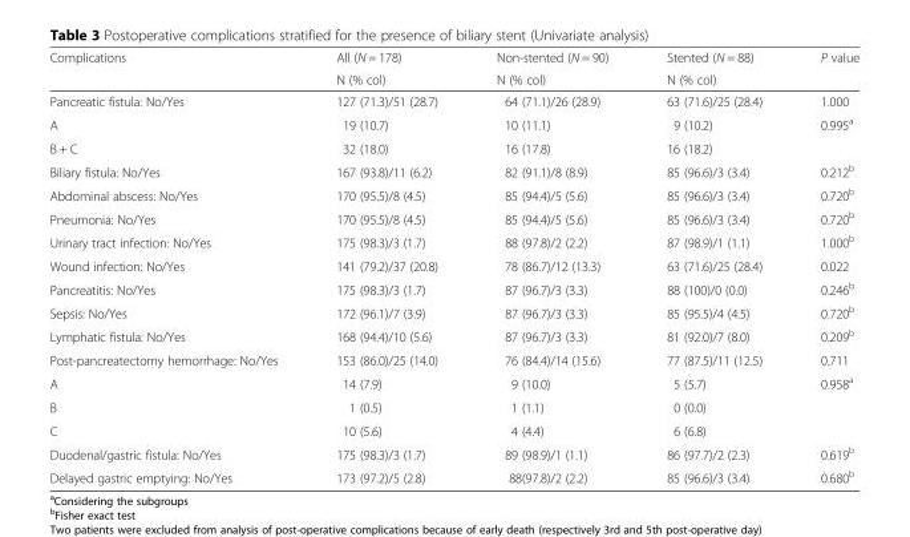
<table><thead><tr><td rowspan="2">Complications</td><td rowspan="2">All (N = 178) N (% col)</td><td rowspan="2">Non-stented (N = 90) N (% col)</td><td rowspan="2">Stented (N = 88) N (% col)</td><td rowspan="2">P value</td></tr><tr></tr></thead><tbody><tr><td>Pancreatic fistula: No/Yes</td><td>127 (71.3)/51 (28.7)</td><td>64 (71.1)/26 (28.9)</td><td>63 (71.6)/25 (28.4)</td><td>1.000</td></tr><tr><td>A</td><td>19 (10.7)</td><td>10 (11.1)</td><td>9 (10.2)</td><td rowspan="2">0.995<sup>a</sup></td></tr><tr><td>B + C</td><td>32 (18.0)</td><td>16 (17.8)</td><td>16 (18.2)</td></tr><tr><td>Biliary fistula: No/Yes</td><td>167 (93.8)/11 (6.2)</td><td>82 (91.1)/8 (8.9)</td><td>85 (96.6)/3 (3.4)</td><td>0.212<sup>b</sup></td></tr><tr><td>Abdominal abscess: No/Yes</td><td>170 (95.5)/8 (4.5)</td><td>85 (94.4)/5 (5.6)</td><td>85 (96.6)/3 (3.4)</td><td>0.720<sup>b</sup></td></tr><tr><td>Pneumonia: No/Yes</td><td>170 (95.5)/8 (4.5)</td><td>85 (94.4)/5 (5.6)</td><td>85 (96.6)/3 (3.4)</td><td>0.720<sup>b</sup></td></tr><tr><td>Urinary tract infection: No/Yes</td><td>175 (98.3)/3 (1.7)</td><td>88 (97.8)/2 (2.2)</td><td>87 (98.9)/1 (1.1)</td><td>1.000<sup>b</sup></td></tr><tr><td>Wound infection: No/Yes</td><td>141 (79.2)/37 (20.8)</td><td>78 (86.7)/12 (13.3)</td><td>63 (71.6)/25 (28.4)</td><td>0.022</td></tr><tr><td>Pancreatitis: No/Yes</td><td>175 (98.3)/3 (1.7)</td><td>87 (96.7)/3 (3.3)</td><td>88 (100)/0 (0.0)</td><td>0.246<sup>b</sup></td></tr><tr><td>Sepsis: No/Yes</td><td>172 (96.1)/7 (3.9)</td><td>87 (96.7)/3 (3.3)</td><td>85 (95.5)/4 (4.5)</td><td>0.720<sup>b</sup></td></tr><tr><td>Lymphatic fistula: No/Yes</td><td>168 (94.4)/10 (5.6)</td><td>87 (96.7)/3 (3.3)</td><td>81 (92.0)/7 (8.0)</td><td>0.209<sup>b</sup></td></tr><tr><td>Post-pancreatectomy hemorrhage: No/Yes</td><td>153 (86.0)/25 (14.0)</td><td>76 (84.4)/14 (15.6)</td><td>77 (87.5)/11 (12.5)</td><td>0.711</td></tr><tr><td>A</td><td>14 (7.9)</td><td>9 (10.0)</td><td>5 (5.7)</td><td rowspan="3">0.958<sup>a</sup></td></tr><tr><td>B</td><td>1 (0.5)</td><td>1 (1.1)</td><td>0 (0.0)</td></tr><tr><td>C</td><td>10 (5.6)</td><td>4 (4.4)</td><td>6 (6.8)</td></tr><tr><td>Duodenal/gastric fistula: No/Yes</td><td>175 (98.3)/3 (1.7)</td><td>89 (98.9)/1 (1.1)</td><td>86 (97.7)/2 (2.3)</td><td>0.619<sup>b</sup></td></tr><tr><td>Delayed gastric emptying: No/Yes</td><td>173 (97.2)/5 (2.8)</td><td>88(97.8)/2 (2.2)</td><td>85 (96.6)/3 (3.4)</td><td>0.680<sup>b</sup></td></tr></tbody></table>